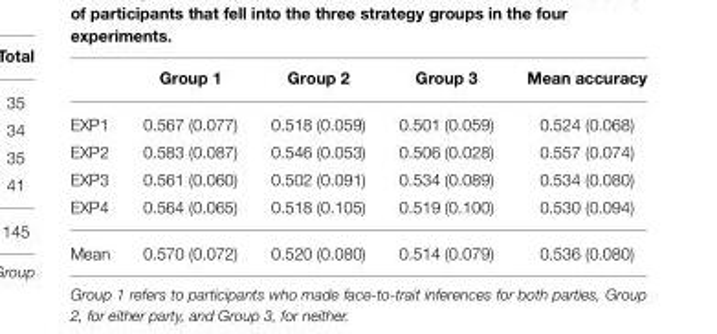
<table><thead><tr><td></td><td>Group 1</td><td>Group 2</td><td>Group 3</td><td>Mean accuracy</td></tr></thead><tbody><tr><td>EXP1</td><td>0.567 (0.077)</td><td>0.518 (0.059)</td><td>0.501 (0.059)</td><td>0.524 (0.068)</td></tr><tr><td>EXP2</td><td>0.583 (0.087)</td><td>0.546 (0.053)</td><td>0.506 (0.028)</td><td>0.557 (0.074)</td></tr><tr><td>EXP3</td><td>0.561 (0.060)</td><td>0.502 (0.091)</td><td>0.534 (0.089)</td><td>0.534 (0.080)</td></tr><tr><td>EXP4</td><td>0.564 (0.065)</td><td>0.518 (0.105)</td><td>0.519 (0.100)</td><td>0.530 (0.094)</td></tr><tr><td>Mean</td><td>0.570 (0.072)</td><td>0.520 (0.080)</td><td>0.514 (0.079)</td><td>0.536 (0.080)</td></tr></tbody></table>